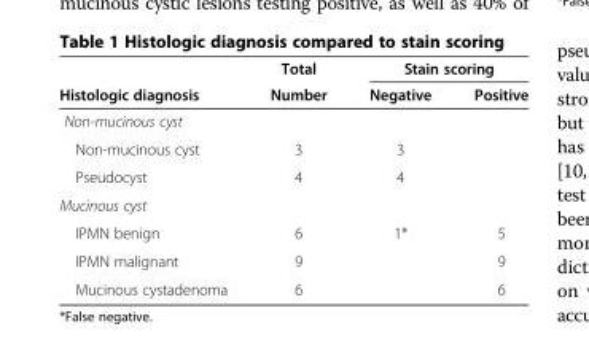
<table><thead><tr><td rowspan="2">Histologic diagnosis</td><td rowspan="2">Total Number</td><td colspan="2">Stain scoring</td></tr><tr><td>Negative</td><td>Positive</td></tr></thead><tbody><tr><td colspan="4">Non-mucinous cyst</td></tr><tr><td>Non-mucinous cyst</td><td>3</td><td>3</td><td></td></tr><tr><td>Pseudocyst</td><td>4</td><td>4</td><td></td></tr><tr><td colspan="4">Mucinous cyst</td></tr><tr><td>IPMN benign</td><td>6</td><td>1*</td><td>5</td></tr><tr><td>IPMN malignant</td><td>9</td><td></td><td>9</td></tr><tr><td>Mucinous cystadenoma</td><td>6</td><td></td><td>6</td></tr></tbody></table>